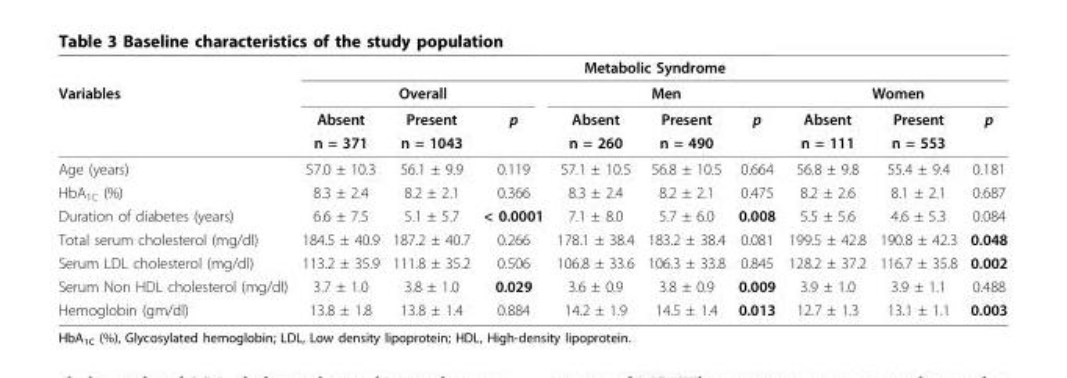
<table><thead><tr><td rowspan="4">Variables</td><td colspan="9">Metabolic Syndrome</td></tr><tr><td colspan="3">Overall</td><td colspan="3">Men</td><td colspan="3">Women</td></tr><tr><td rowspan="2">Absent n = 371</td><td rowspan="2">Present n = 1043</td><td rowspan="2">p</td><td rowspan="2">Absent n = 260</td><td rowspan="2">Present n = 490</td><td rowspan="2">p</td><td rowspan="2">Absent n = 111</td><td rowspan="2">Present n = 553</td><td rowspan="2">p</td></tr><tr></tr></thead><tbody><tr><td>Age (years)</td><td>57.0 ± 10.3</td><td>56.1 ± 9.9</td><td>0.119</td><td>57.1 ± 10.5</td><td>56.8 ± 10.5</td><td>0.664</td><td>56.8 ± 9.8</td><td>55.4 ± 9.4</td><td>0.181</td></tr><tr><td>HbA<sub>1C</sub> (%)</td><td>8.3 ± 2.4</td><td>8.2 ± 2.1</td><td>0.366</td><td>8.3 ± 2.4</td><td>8.2 ± 2.1</td><td>0.475</td><td>8.2 ± 2.6</td><td>8.1 ± 2.1</td><td>0.687</td></tr><tr><td>Duration of diabetes (years)</td><td>6.6 ± 7.5</td><td>5.1 ± 5.7</td><td>&lt; 0.0001</td><td>7.1 ± 8.0</td><td>5.7 ± 6.0</td><td>0.008</td><td>5.5 ± 5.6</td><td>4.6 ± 5.3</td><td>0.084</td></tr><tr><td>Total serum cholesterol (mg/dl)</td><td>184.5 ± 40.9</td><td>187.2 ± 40.7</td><td>0.266</td><td>178.1 ± 38.4</td><td>183.2 ± 38.4</td><td>0.081</td><td>199.5 ± 42.8</td><td>190.8 ± 42.3</td><td>0.048</td></tr><tr><td>Serum LDL cholesterol (mg/dl)</td><td>113.2 ± 35.9</td><td>111.8 ± 35.2</td><td>0.506</td><td>106.8 ± 33.6</td><td>106.3 ± 33.8</td><td>0.845</td><td>128.2 ± 37.2</td><td>116.7 ± 35.8</td><td>0.002</td></tr><tr><td>Serum Non HDL cholesterol (mg/dl)</td><td>3.7 ± 1.0</td><td>3.8 ± 1.0</td><td>0.029</td><td>3.6 ± 0.9</td><td>3.8 ± 0.9</td><td>0.009</td><td>3.9 ± 1.0</td><td>3.9 ± 1.1</td><td>0.488</td></tr><tr><td>Hemoglobin (gm/dl)</td><td>13.8 ± 1.8</td><td>13.8 ± 1.4</td><td>0.884</td><td>14.2 ± 1.9</td><td>14.5 ± 1.4</td><td>0.013</td><td>12.7 ± 1.3</td><td>13.1 ± 1.1</td><td>0.003</td></tr></tbody></table>